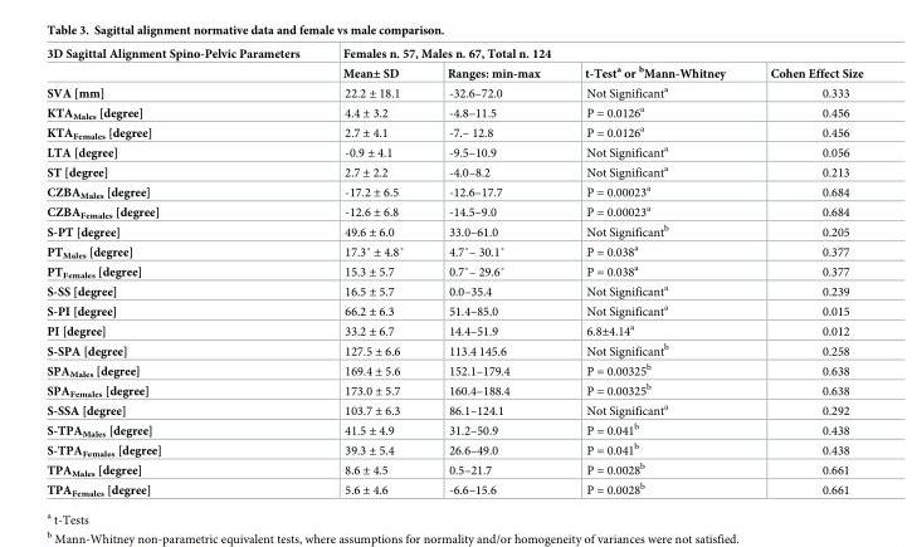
<table><thead><tr><td rowspan="2">3D Sagittal Alignment Spino-Pelvic Parameters</td><td colspan="4">Females n. 57, Males n. 67, Total n. 124</td></tr><tr><td>Mean± SD</td><td>Ranges: min-max</td><td>t-Test<sup>a</sup> or <sup>b</sup>Mann-Whitney</td><td>Cohen Effect Size</td></tr></thead><tbody><tr><td>SVA [mm]</td><td>22.2 ± 18.1</td><td>-32.6–72.0</td><td>Not Significant<sup>a</sup></td><td>0.333</td></tr><tr><td>KTA<sub>Males</sub> [degree]</td><td>4.4 ± 3.2</td><td>-4.8–11.5</td><td>P = 0.0126<sup>a</sup></td><td>0.456</td></tr><tr><td>KTA<sub>Females</sub> [degree]</td><td>2.7 ± 4.1</td><td>-7.– 12.8</td><td>P = 0.0126<sup>a</sup></td><td>0.456</td></tr><tr><td>LTA [degree]</td><td>-0.9 ± 4.1</td><td>-9.5–10.9</td><td>Not Significant<sup>a</sup></td><td>0.056</td></tr><tr><td>ST [degree]</td><td>2.7 ± 2.2</td><td>-4.0–8.2</td><td>Not Significant<sup>a</sup></td><td>0.213</td></tr><tr><td>CZBA<sub>Males</sub> [degree]</td><td>-17.2 ± 6.5</td><td>-12.6–17.7</td><td>P = 0.00023<sup>a</sup></td><td>0.684</td></tr><tr><td>CZBA<sub>Females</sub> [degree]</td><td>-12.6 ± 6.8</td><td>-14.5–9.0</td><td>P = 0.00023<sup>a</sup></td><td>0.684</td></tr><tr><td>S-PT [degree]</td><td>49.6 ± 6.0</td><td>33.0–61.0</td><td>Not Significant<sup>b</sup></td><td>0.205</td></tr><tr><td>PT<sub>Males</sub> [degree]</td><td>17.3˚ ± 4.8˚</td><td>4.7˚– 30.1˚</td><td>P = 0.038<sup>a</sup></td><td>0.377</td></tr><tr><td>PT<sub>Females</sub> [degree]</td><td>15.3 ± 5.7</td><td>0.7˚– 29.6˚</td><td>P = 0.038<sup>a</sup></td><td>0.377</td></tr><tr><td>S-SS [degree]</td><td>16.5 ± 5.7</td><td>0.0–35.4</td><td>Not Significant<sup>a</sup></td><td>0.239</td></tr><tr><td>S-PI [degree]</td><td>66.2 ± 6.3</td><td>51.4–85.0</td><td>Not Significant<sup>a</sup></td><td>0.015</td></tr><tr><td>PI [degree]</td><td>33.2 ± 6.7</td><td>14.4–51.9</td><td>6.8±4.14<sup>a</sup></td><td>0.012</td></tr><tr><td>S-SPA [degree]</td><td>127.5 ± 6.6</td><td>113.4 145.6</td><td>Not Significant<sup>b</sup></td><td>0.258</td></tr><tr><td>SPA<sub>Males</sub> [degree]</td><td>169.4 ± 5.6</td><td>152.1–179.4</td><td>P = 0.00325<sup>b</sup></td><td>0.638</td></tr><tr><td>SPA<sub>Females</sub> [degree]</td><td>173.0 ± 5.7</td><td>160.4–188.4</td><td>P = 0.00325<sup>b</sup></td><td>0.638</td></tr><tr><td>S-SSA [degree]</td><td>103.7 ± 6.3</td><td>86.1–124.1</td><td>Not Significant<sup>a</sup></td><td>0.292</td></tr><tr><td>S-TPA<sub>Males</sub> [degree]</td><td>41.5 ± 4.9</td><td>31.2–50.9</td><td>P = 0.041<sup>b</sup></td><td>0.438</td></tr><tr><td>S-TPA<sub>Females</sub> [degree]</td><td>39.3 ± 5.4</td><td>26.6–49.0</td><td>P = 0.041<sup>b</sup></td><td>0.438</td></tr><tr><td>TPA<sub>Males</sub> [degree]</td><td>8.6 ± 4.5</td><td>0.5–21.7</td><td>P = 0.0028<sup>b</sup></td><td>0.661</td></tr><tr><td>TPA<sub>Females</sub> [degree]</td><td>5.6 ± 4.6</td><td>-6.6–15.6</td><td>P = 0.0028<sup>b</sup></td><td>0.661</td></tr></tbody></table>